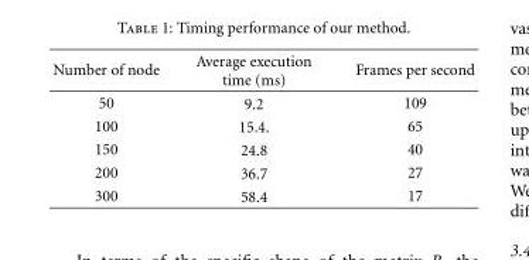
<table><thead><tr><td>Number of node</td><td>Average execution time (ms)</td><td>Frames per second</td></tr></thead><tbody><tr><td>50</td><td>9.2</td><td>109</td></tr><tr><td>100</td><td>15.4.</td><td>65</td></tr><tr><td>150</td><td>24.8</td><td>40</td></tr><tr><td>200</td><td>36.7</td><td>27</td></tr><tr><td>300</td><td>58.4</td><td>17</td></tr></tbody></table>